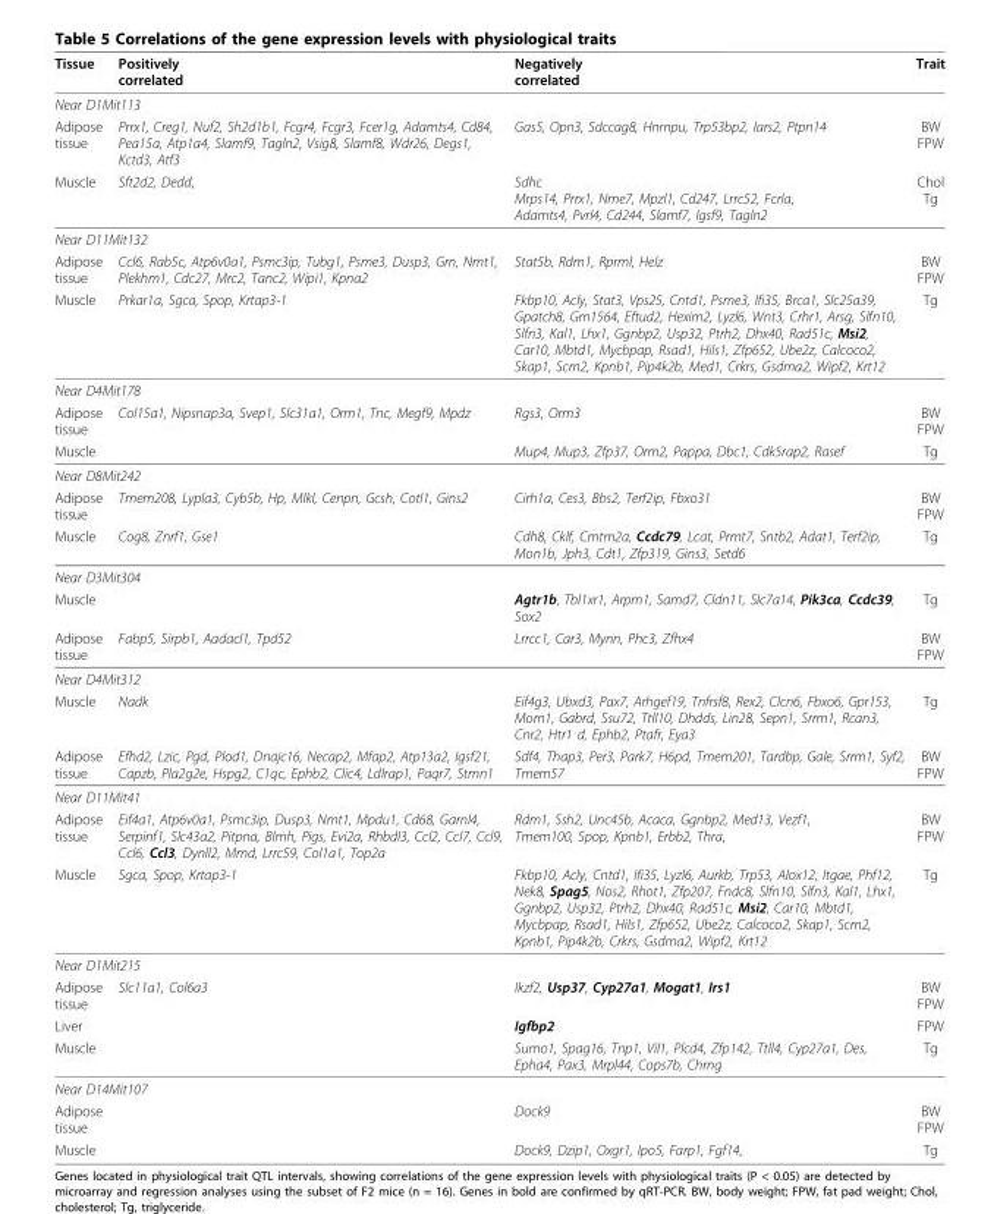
<table><thead><tr><td>Tissue</td><td>Positively correlated</td><td>Negatively correlated</td><td>Trait</td></tr></thead><tbody><tr><td colspan="4">Near D1Mit113</td></tr><tr><td>Adipose tissue</td><td>Prrx1, Creg1, Nuf2, Sh2d1b1, Fcgr4, Fcgr3, Fcer1g, Adamts4, Cd84, Pea15a, Atp1a4, Slamf9, Tagln2, Vsig8, Slamf8, Wdr26, Degs1, Kctd3, Atf3</td><td>Gas5, Opn3, Sdccag8, Hnrnpu, Trp53bp2, Iars2, Ptpn14</td><td>BW FPW</td></tr><tr><td>Muscle</td><td>Sft2d2, Dedd,</td><td>Sdhc Mrps14, Prrx1, Nme7, Mpzl1, Cd247, Lrrc52, Fcrla, Adamts4, Pvrl4, Cd244, Slamf7, Igsf9, Tagln2</td><td>Chol Tg</td></tr><tr><td colspan="4">Near D11Mit132</td></tr><tr><td>Adipose tissue</td><td>Ccl6, Rab5c, Atp6v0a1, Psmc3ip, Tubg1, Psme3, Dusp3, Grn, Nmt1, Plekhm1, Cdc27, Mrc2, Tanc2, Wipi1, Kpna2</td><td>Stat5b, Rdm1, Rprml, Helz</td><td>BW FPW</td></tr><tr><td>Muscle</td><td>Prkar1a, Sgca, Spop, Krtap3-1</td><td>Fkbp10, Acly, Stat3, Vps25, Cntd1, Psme3, Ifi35, Brca1, Slc25a39, Gpatch8, Gm1564, Eftud2, Hexim2, Lyzl6, Wnt3, Crhr1, Arsg, Slfn10, Slfn3, Kal1, Lhx1, Ggnbp2, Usp32, Ptrh2, Dhx40, Rad51c, Msi2, Car10, Mbtd1, Mycbpap, Rsad1, Hils1, Zfp652, Ube2z, Calcoco2, Skap1, Scrn2, Kpnb1, Pip4k2b, Med1, Crkrs, Gsdma2, Wipf2, Krt12</td><td>Tg</td></tr><tr><td colspan="4">Near D4Mit178</td></tr><tr><td>Adipose tissue</td><td>Col15a1, Nipsnap3a, Svep1, Slc31a1, Orm1, Tnc, Megf9, Mpdz</td><td>Rgs3, Orm3</td><td>BW FPW</td></tr><tr><td>Muscle</td><td></td><td>Mup4, Mup3, Zfp37, Orm2, Pappa, Dbc1, Cdk5rap2, Rasef</td><td>Tg</td></tr><tr><td colspan="4">Near D8Mit242</td></tr><tr><td>Adipose tissue</td><td>Tmem208, Lypla3, Cyb5b, Hp, Mlkl, Cenpn, Gcsh, Cotl1, Gins2</td><td>Cirh1a, Ces3, Bbs2, Terf2ip, Fbxo31</td><td>BW FPW</td></tr><tr><td>Muscle</td><td>Cog8, Znrf1, Gse1</td><td>Cdh8, Cklf, Cmtm2a, Ccdc79, Lcat, Prmt7, Sntb2, Adat1, Terf2ip, Mon1b, Jph3, Cdt1, Zfp319, Gins3, Setd6</td><td>Tg</td></tr><tr><td colspan="4">Near D3Mit304</td></tr><tr><td>Muscle</td><td></td><td>Agtr1b, Tbl1xr1, Arpm1, Samd7, Cldn11, Slc7a14, Pik3ca, Ccdc39, Sox2</td><td>Tg</td></tr><tr><td>Adipose tissue</td><td>Fabp5, Sirpb1, Aadacl1, Tpd52</td><td>Lrrcc1, Car3, Mynn, Phc3, Zfhx4</td><td>BW FPW</td></tr><tr><td colspan="4">Near D4Mit312</td></tr><tr><td>Muscle</td><td>Nadk</td><td>Eif4g3, Ubxd3, Pax7, Arhgef19, Tnfrsf8, Rex2, Clcn6, Fbxo6, Gpr153, Morn1, Gabrd, Ssu72, Ttll10, Dhdds, Lin28, Sepn1, Srrm1, Rcan3, Cnr2, Htr1 d, Ephb2, Ptafr, Eya3</td><td>Tg</td></tr><tr><td>Adipose tissue</td><td>Efhd2, Lzic, Pgd, Plod1, Dnajc16, Necap2, Mfap2, Atp13a2, Igsf21, Capzb, Pla2g2e, Hspg2, C1qc, Ephb2, Clic4, Ldlrap1, Paqr7, Stmn1</td><td>Sdf4, Thap3, Per3, Park7, H6pd, Tmem201, Tardbp, Gale, Srrm1, Syf2, Tmem57</td><td>BW FPW</td></tr><tr><td colspan="4">Near D11Mit41</td></tr><tr><td>Adipose tissue</td><td>Eif4a1, Atp6v0a1, Psmc3ip, Dusp3, Nmt1, Mpdu1, Cd68, Garnl4, Serpinf1, Slc43a2, Pitpna, Blmh, Pigs, Evi2a, Rhbdl3, Ccl2, Ccl7, Ccl9, Ccl6, Ccl3, Dynll2, Mmd, Lrrc59, Col1a1, Top2a</td><td>Rdm1, Ssh2, Unc45b, Acaca, Ggnbp2, Med13, Vezf1, Tmem100, Spop, Kpnb1, Erbb2, Thra,</td><td>BW FPW</td></tr><tr><td>Muscle</td><td>Sgca, Spop, Krtap3-1</td><td>Fkbp10, Acly, Cntd1, Ifi35, Lyzl6, Aurkb, Trp53, Alox12, Itgae, Phf12, Nek8, Spag5, Nos2, Rhot1, Zfp207, Fndc8, Slfn10, Slfn3, Kal1, Lhx1, Ggnbp2, Usp32, Ptrh2, Dhx40, Rad51c, Msi2, Car10, Mbtd1, Mycbpap, Rsad1, Hils1, Zfp652, Ube2z, Calcoco2, Skap1, Scrn2, Kpnb1, Pip4k2b, Crkrs, Gsdma2, Wipf2, Krt12</td><td>Tg</td></tr><tr><td colspan="4">Near D1Mit215</td></tr><tr><td>Adipose tissue</td><td>Slc11a1, Col6a3</td><td>Ikzf2, Usp37, Cyp27a1, Mogat1, Irs1</td><td>BW FPW</td></tr><tr><td>Liver</td><td></td><td>Igfbp2</td><td>FPW</td></tr><tr><td>Muscle</td><td></td><td>Sumo1, Spag16, Tnp1, Vil1, Plcd4, Zfp142, Ttll4, Cyp27a1, Des, Epha4, Pax3, Mrpl44, Cops7b, Chrng</td><td>Tg</td></tr><tr><td colspan="4">Near D14Mit107</td></tr><tr><td>Adipose tissue</td><td></td><td>Dock9</td><td>BW FPW</td></tr><tr><td>Muscle</td><td></td><td>Dock9, Dzip1, Oxgr1, Ipo5, Farp1, Fgf14,</td><td>Tg</td></tr></tbody></table>